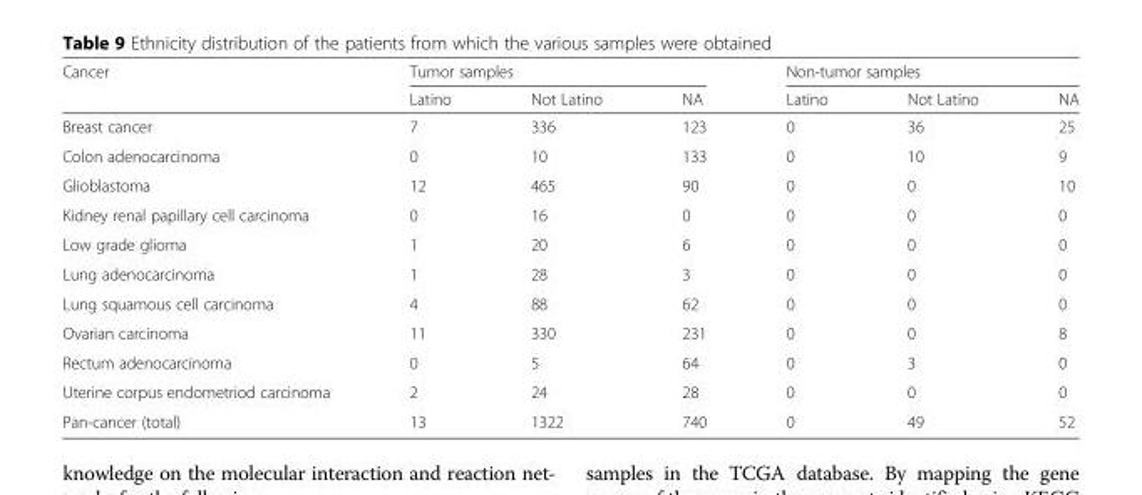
<table><thead><tr><td rowspan="2">Cancer</td><td colspan="3">Tumor samples</td><td colspan="3">Non-tumor samples</td></tr><tr><td>Latino</td><td>Not Latino</td><td>NA</td><td>Latino</td><td>Not Latino</td><td>NA</td></tr></thead><tbody><tr><td>Breast cancer</td><td>7</td><td>336</td><td>123</td><td>0</td><td>36</td><td>25</td></tr><tr><td>Colon adenocarcinoma</td><td>0</td><td>10</td><td>133</td><td>0</td><td>10</td><td>9</td></tr><tr><td>Glioblastoma</td><td>12</td><td>465</td><td>90</td><td>0</td><td>0</td><td>10</td></tr><tr><td>Kidney renal papillary cell carcinoma</td><td>0</td><td>16</td><td>0</td><td>0</td><td>0</td><td>0</td></tr><tr><td>Low grade glioma</td><td>1</td><td>20</td><td>6</td><td>0</td><td>0</td><td>0</td></tr><tr><td>Lung adenocarcinoma</td><td>1</td><td>28</td><td>3</td><td>0</td><td>0</td><td>0</td></tr><tr><td>Lung squamous cell carcinoma</td><td>4</td><td>88</td><td>62</td><td>0</td><td>0</td><td>0</td></tr><tr><td>Ovarian carcinoma</td><td>11</td><td>330</td><td>231</td><td>0</td><td>0</td><td>8</td></tr><tr><td>Rectum adenocarcinoma</td><td>0</td><td>5</td><td>64</td><td>0</td><td>3</td><td>0</td></tr><tr><td>Uterine corpus endometriod carcinoma</td><td>2</td><td>24</td><td>28</td><td>0</td><td>0</td><td>0</td></tr><tr><td>Pan-cancer (total)</td><td>13</td><td>1322</td><td>740</td><td>0</td><td>49</td><td>52</td></tr></tbody></table>